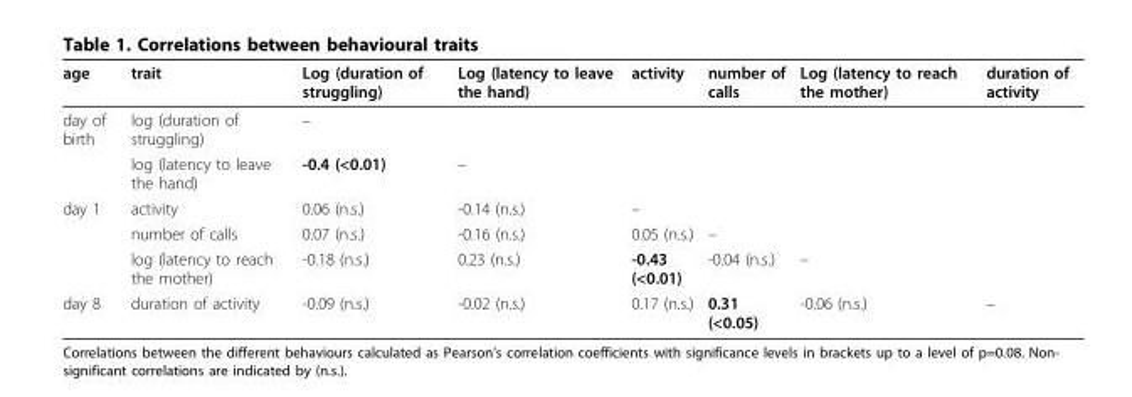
<table><tbody><tr><td>age</td><td>trait</td><td>Log (duration of struggling)</td><td>Log (latency to leave the hand)</td><td>activity</td><td>number of calls</td><td>Log (latency to reach the mother)</td><td>duration of activity</td></tr><tr><td rowspan="2">day of birth</td><td>log (duration of struggling)</td><td>–</td><td></td><td></td><td></td><td></td><td></td></tr><tr><td>log (latency to leave the hand)</td><td>-0.4 (&lt;0.01)</td><td>–</td><td></td><td></td><td></td><td></td></tr><tr><td rowspan="3">day 1</td><td>activity</td><td>0.06 (n.s.)</td><td>-0.14 (n.s.)</td><td>–</td><td></td><td></td><td></td></tr><tr><td>number of calls</td><td>0.07 (n.s.)</td><td>-0.16 (n.s.)</td><td>0.05 (n.s.)</td><td>–</td><td></td><td></td></tr><tr><td>log (latency to reach the mother)</td><td>-0.18 (n.s.)</td><td>0.23 (n.s.)</td><td>-0.43 (&lt;0.01)</td><td>-0.04 (n.s.)</td><td>–</td><td></td></tr><tr><td>day 8</td><td>duration of activity</td><td>-0.09 (n.s.)</td><td>-0.02 (n.s.)</td><td>0.17 (n.s.)</td><td>0.31 (&lt;0.05)</td><td>-0.06 (n.s.)</td><td>–</td></tr></tbody></table>